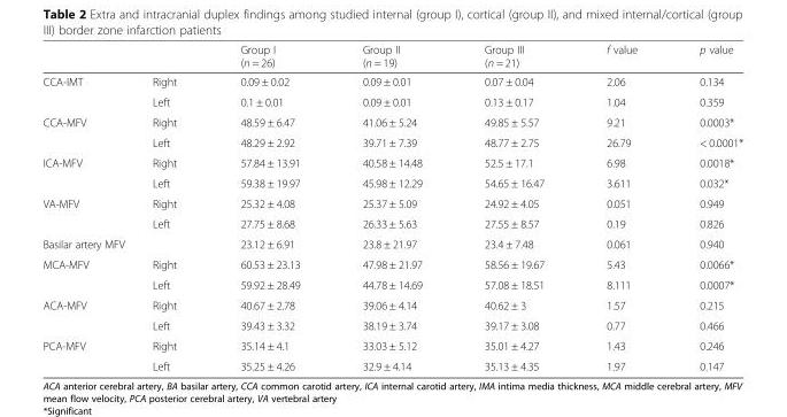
<table><thead><tr><td></td><td></td><td>Group I (n = 26)</td><td>Group II (n = 19)</td><td>Group III (n = 21)</td><td>f value</td><td>p value</td></tr></thead><tbody><tr><td rowspan="2">CCA-IMT</td><td>Right</td><td>0.09 ± 0.02</td><td>0.09 ± 0.01</td><td>0.07 ± 0.04</td><td>2.06</td><td>0.134</td></tr><tr><td>Left</td><td>0.1 ± 0.01</td><td>0.09 ± 0.01</td><td>0.13 ± 0.17</td><td>1.04</td><td>0.359</td></tr><tr><td rowspan="2">CCA-MFV</td><td>Right</td><td>48.59 ± 6.47</td><td>41.06 ± 5.24</td><td>49.85 ± 5.57</td><td>9.21</td><td>0.0003*</td></tr><tr><td>Left</td><td>48.29 ± 2.92</td><td>39.71 ± 7.39</td><td>48.77 ± 2.75</td><td>26.79</td><td>&lt; 0.0001*</td></tr><tr><td rowspan="2">ICA-MFV</td><td>Right</td><td>57.84 ± 13.91</td><td>40.58 ± 14.48</td><td>52.5 ± 17.1</td><td>6.98</td><td>0.0018*</td></tr><tr><td>Left</td><td>59.38 ± 19.97</td><td>45.98 ± 12.29</td><td>54.65 ± 16.47</td><td>3.611</td><td>0.032*</td></tr><tr><td rowspan="2">VA-MFV</td><td>Right</td><td>25.32 ± 4.08</td><td>25.37 ± 5.09</td><td>24.92 ± 4.05</td><td>0.051</td><td>0.949</td></tr><tr><td>Left</td><td>27.75 ± 8.68</td><td>26.33 ± 5.63</td><td>27.55 ± 8.57</td><td>0.19</td><td>0.826</td></tr><tr><td colspan="2">Basilar artery MFV</td><td>23.12 ± 6.91</td><td>23.8 ± 21.97</td><td>23.4 ± 7.48</td><td>0.061</td><td>0.940</td></tr><tr><td rowspan="2">MCA-MFV</td><td>Right</td><td>60.53 ± 23.13</td><td>47.98 ± 21.97</td><td>58.56 ± 19.67</td><td>5.43</td><td>0.0066*</td></tr><tr><td>Left</td><td>59.92 ± 28.49</td><td>44.78 ± 14.69</td><td>57.08 ± 18.51</td><td>8.111</td><td>0.0007*</td></tr><tr><td rowspan="2">ACA-MFV</td><td>Right</td><td>40.67 ± 2.78</td><td>39.06 ± 4.14</td><td>40.62 ± 3</td><td>1.57</td><td>0.215</td></tr><tr><td>Left</td><td>39.43 ± 3.32</td><td>38.19 ± 3.74</td><td>39.17 ± 3.08</td><td>0.77</td><td>0.466</td></tr><tr><td rowspan="2">PCA-MFV</td><td>Right</td><td>35.14 ± 4.1</td><td>33.03 ± 5.12</td><td>35.01 ± 4.27</td><td>1.43</td><td>0.246</td></tr><tr><td>Left</td><td>35.25 ± 4.26</td><td>32.9 ± 4.14</td><td>35.13 ± 4.35</td><td>1.97</td><td>0.147</td></tr></tbody></table>